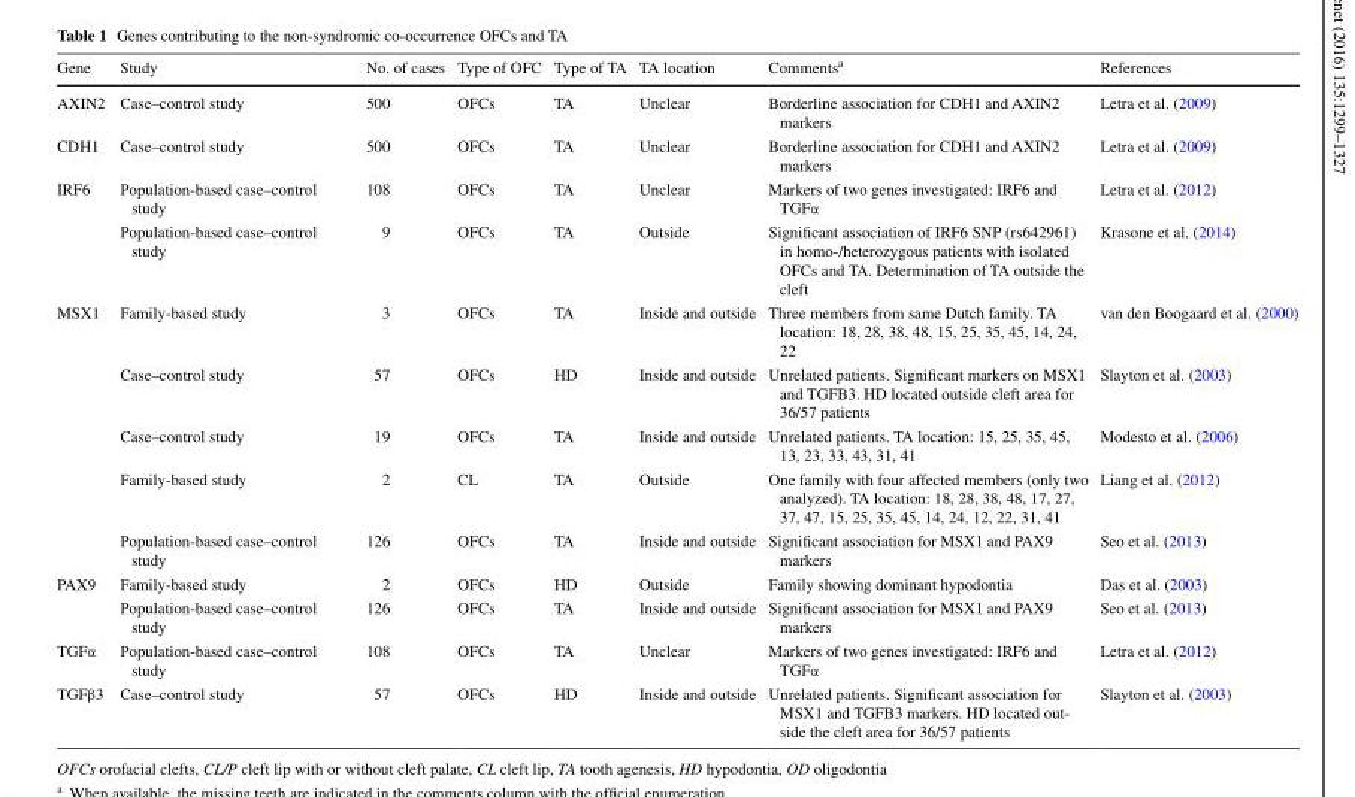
<table><thead><tr><td>Gene</td><td>Study</td><td>No. of cases</td><td>Type of OFC</td><td>Type of TA</td><td>TA location</td><td>Comments<sup>a</sup></td><td>References</td></tr></thead><tbody><tr><td>AXIN2</td><td>Case–control study</td><td>500</td><td>OFCs</td><td>TA</td><td>Unclear</td><td>Borderline association for CDH1 and AXIN2 markers</td><td>Letra et al. (2009)</td></tr><tr><td>CDH1</td><td>Case–control study</td><td>500</td><td>OFCs</td><td>TA</td><td>Unclear</td><td>Borderline association for CDH1 and AXIN2 markers</td><td>Letra et al. (2009)</td></tr><tr><td rowspan="2">IRF6</td><td>Population-based case–control study</td><td>108</td><td>OFCs</td><td>TA</td><td>Unclear</td><td>Markers of two genes investigated: IRF6 and TGFα</td><td>Letra et al. (2012)</td></tr><tr><td>Population-based case–control study</td><td>9</td><td>OFCs</td><td>TA</td><td>Outside</td><td>Significant association of IRF6 SNP (rs642961) in homo-/heterozygous patients with isolated OFCs and TA. Determination of TA outside the cleft</td><td>Krasone et al. (2014)</td></tr><tr><td rowspan="5">MSX1</td><td>Family-based study</td><td>3</td><td>OFCs</td><td>TA</td><td>Inside and outside</td><td>Three members from same Dutch family. TA location: 18, 28, 38, 48, 15, 25, 35, 45, 14, 24, 22</td><td>van den Boogaard et al. (2000)</td></tr><tr><td>Case–control study</td><td>57</td><td>OFCs</td><td>HD</td><td>Inside and outside</td><td>Unrelated patients. Significant markers on MSX1 and TGFB3. HD located outside cleft area for 36/57 patients</td><td>Slayton et al. (2003)</td></tr><tr><td>Case–control study</td><td>19</td><td>OFCs</td><td>TA</td><td>Inside and outside</td><td>Unrelated patients. TA location: 15, 25, 35, 45, 13, 23, 33, 43, 31, 41</td><td>Modesto et al. (2006)</td></tr><tr><td>Family-based study</td><td>2</td><td>CL</td><td>TA</td><td>Outside</td><td>One family with four affected members (only two analyzed). TA location: 18, 28, 38, 48, 17, 27, 37, 47, 15, 25, 35, 45, 14, 24, 12, 22, 31, 41</td><td>Liang et al. (2012)</td></tr><tr><td>Population-based case–control study</td><td>126</td><td>OFCs</td><td>TA</td><td>Inside and outside</td><td>Significant association for MSX1 and PAX9 markers</td><td>Seo et al. (2013)</td></tr><tr><td rowspan="2">PAX9</td><td>Family-based study</td><td>2</td><td>OFCs</td><td>HD</td><td>Outside</td><td>Family showing dominant hypodontia</td><td>Das et al. (2003)</td></tr><tr><td>Population-based case–control study</td><td>126</td><td>OFCs</td><td>TA</td><td>Inside and outside</td><td>Significant association for MSX1 and PAX9 markers</td><td>Seo et al. (2013)</td></tr><tr><td>TGFα</td><td>Population-based case–control study</td><td>108</td><td>OFCs</td><td>TA</td><td>Unclear</td><td>Markers of two genes investigated: IRF6 and TGFα</td><td>Letra et al. (2012)</td></tr><tr><td>TGFβ3</td><td>Case–control study</td><td>57</td><td>OFCs</td><td>HD</td><td>Inside and outside</td><td>Unrelated patients. Significant association for MSX1 and TGFB3 markers. HD located out- side the cleft area for 36/57 patients</td><td>Slayton et al. (2003)</td></tr></tbody></table>